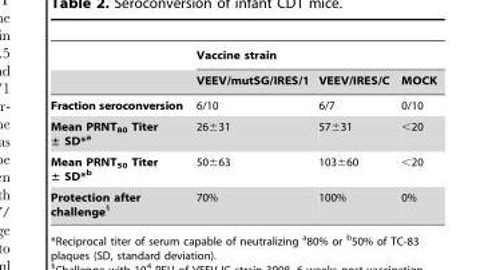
<table><thead><tr><td rowspan="2"></td><td colspan="3">Vaccine strain</td></tr><tr><td>VEEV/mutSG/IRES/1</td><td>VEEV/IRES/C</td><td>MOCK</td></tr></thead><tbody><tr><td>Fraction seroconversion</td><td>6/10</td><td>6/7</td><td>0/10</td></tr><tr><td>Mean PRNT<sub>80</sub> Titer ± SD*<sup>a</sup></td><td>26±31</td><td>57±31</td><td>&lt;20</td></tr><tr><td>Mean PRNT<sub>50</sub> Titer ± SD*<sup>b</sup></td><td>50±63</td><td>103±60</td><td>&lt;20</td></tr><tr><td>Protection after challenge§</td><td>70%</td><td>100%</td><td>0%</td></tr></tbody></table>